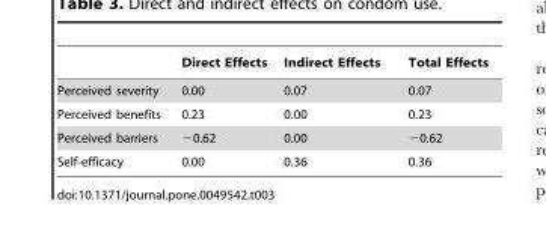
<table><thead><tr><td></td><td>Direct Effects</td><td>Indirect Effects</td><td>Total Effects</td></tr></thead><tbody><tr><td>Perceived severity</td><td>0.00</td><td>0.07</td><td>0.07</td></tr><tr><td>Perceived benefits</td><td>0.23</td><td>0.00</td><td>0.23</td></tr><tr><td>Perceived barriers</td><td>−0.62</td><td>0.00</td><td>−0.62</td></tr><tr><td>Self-efficacy</td><td>0.00</td><td>0.36</td><td>0.36</td></tr></tbody></table>